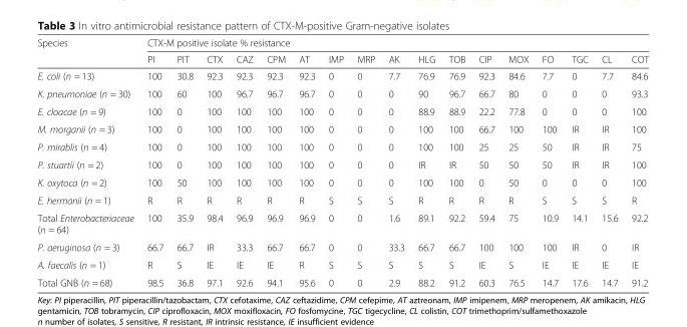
<table><thead><tr><td rowspan="2">Species</td><td colspan="17">CTX-M positive isolate % resistance</td></tr><tr><td>PI</td><td>PIT</td><td>CTX</td><td>CAZ</td><td>CPM</td><td>AT</td><td>IMP</td><td>MRP</td><td>AK</td><td>HLG</td><td>TOB</td><td>CIP</td><td>MOX</td><td>FO</td><td>TGC</td><td>CL</td><td>COT</td></tr></thead><tbody><tr><td>E. coli (n = 13)</td><td>100</td><td>30.8</td><td>92.3</td><td>92.3</td><td>92.3</td><td>92.3</td><td>0</td><td>0</td><td>7.7</td><td>76.9</td><td>76.9</td><td>92.3</td><td>84.6</td><td>7.7</td><td>0</td><td>7.7</td><td>84.6</td></tr><tr><td>K. pneumoniae (n = 30)</td><td>100</td><td>60</td><td>100</td><td>96.7</td><td>96.7</td><td>96.7</td><td>0</td><td>0</td><td>0</td><td>90</td><td>96.7</td><td>66.7</td><td>80</td><td>0</td><td>0</td><td>0</td><td>93.3</td></tr><tr><td>E. cloacae (n = 9)</td><td>100</td><td>0</td><td>100</td><td>100</td><td>100</td><td>100</td><td>0</td><td>0</td><td>0</td><td>88.9</td><td>88.9</td><td>22.2</td><td>77.8</td><td>0</td><td>0</td><td>0</td><td>100</td></tr><tr><td>M. morganii (n = 3)</td><td>100</td><td>0</td><td>100</td><td>100</td><td>100</td><td>100</td><td>0</td><td>0</td><td>0</td><td>100</td><td>100</td><td>66.7</td><td>100</td><td>100</td><td>IR</td><td>IR</td><td>100</td></tr><tr><td>P. mirablis (n = 4)</td><td>100</td><td>0</td><td>100</td><td>100</td><td>100</td><td>100</td><td>0</td><td>0</td><td>0</td><td>100</td><td>100</td><td>25</td><td>25</td><td>50</td><td>IR</td><td>IR</td><td>75</td></tr><tr><td>P. stuartii (n = 2)</td><td>100</td><td>0</td><td>100</td><td>100</td><td>100</td><td>100</td><td>0</td><td>0</td><td>0</td><td>IR</td><td>IR</td><td>50</td><td>50</td><td>50</td><td>IR</td><td>IR</td><td>100</td></tr><tr><td>K. oxytoca (n = 2)</td><td>100</td><td>50</td><td>100</td><td>100</td><td>100</td><td>100</td><td>0</td><td>0</td><td>0</td><td>100</td><td>100</td><td>0</td><td>50</td><td>0</td><td>0</td><td>0</td><td>100</td></tr><tr><td>E. hermanii (n = 1)</td><td>R</td><td>R</td><td>R</td><td>R</td><td>R</td><td>R</td><td>S</td><td>S</td><td>S</td><td>R</td><td>R</td><td>R</td><td>R</td><td>S</td><td>S</td><td>S</td><td>R</td></tr><tr><td>Total Enterobacteriaceae (n = 64)</td><td>100</td><td>35.9</td><td>98.4</td><td>96.9</td><td>96.9</td><td>96.9</td><td>0</td><td>0</td><td>1.6</td><td>89.1</td><td>92.2</td><td>59.4</td><td>75</td><td>10.9</td><td>14.1</td><td>15.6</td><td>92.2</td></tr><tr><td>P. aeruginosa (n = 3)</td><td>66.7</td><td>66.7</td><td>IR</td><td>33.3</td><td>66.7</td><td>66.7</td><td>0</td><td>0</td><td>33.3</td><td>66.7</td><td>66.7</td><td>100</td><td>100</td><td>100</td><td>IR</td><td>0</td><td>IR</td></tr><tr><td>A. faecalis (n = 1)</td><td>R</td><td>S</td><td>IE</td><td>IE</td><td>IE</td><td>R</td><td>S</td><td>S</td><td>S</td><td>S</td><td>S</td><td>IE</td><td>S</td><td>IE</td><td>IE</td><td>IE</td><td>IE</td></tr><tr><td>Total GNB (n = 68)</td><td>98.5</td><td>36.8</td><td>97.1</td><td>92.6</td><td>94.1</td><td>95.6</td><td>0</td><td>0</td><td>2.9</td><td>88.2</td><td>91.2</td><td>60.3</td><td>76.5</td><td>14.7</td><td>17.6</td><td>14.7</td><td>91.2</td></tr></tbody></table>